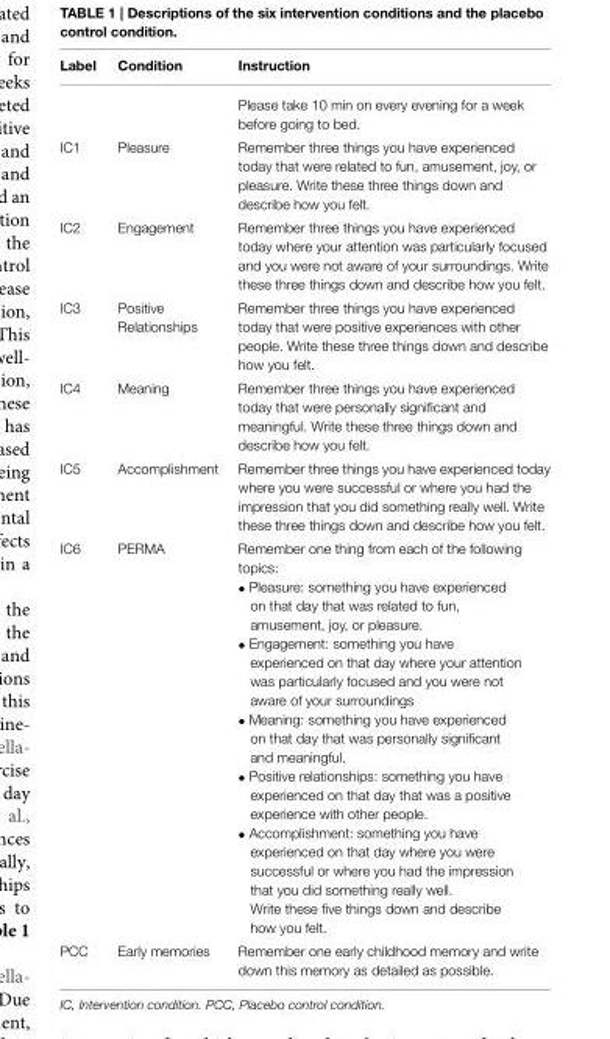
<table><thead><tr><td>Label</td><td>Condition</td><td>Instruction</td></tr></thead><tbody><tr><td></td><td></td><td>Please take 10 min on every evening for a week before going to bed.</td></tr><tr><td>IC1</td><td>Pleasure</td><td>Remember three things you have experienced today that were related to fun, amusement, joy, or pleasure. Write these three things down and describe how you felt.</td></tr><tr><td>IC2</td><td>Engagement</td><td>Remember three things you have experienced today where your attention was particularly focused and you were not aware of your surroundings. Write these three things down and describe how you felt.</td></tr><tr><td>IC3</td><td>Positive Relationships</td><td>Remember three things you have experienced today that were positive experiences with other people. Write these three things down and describe how you felt.</td></tr><tr><td>IC4</td><td>Meaning</td><td>Remember three things you have experienced today that were personally significant and meaningful. Write these three things down and describe how you felt.</td></tr><tr><td>IC5</td><td>Accomplishment</td><td>Remember three things you have experienced today where you were successful or where you had the impression that you did something really well. Write these three things down and describe how you felt.</td></tr><tr><td>IC6</td><td>PERMA</td><td>Remember one thing from each of the following topics: • Pleasure: something you have experienced on that day that was related to fun, amusement, joy, or pleasure. • Engagement: something you have experienced on that day where your attention was particularly focused and you were not aware of your surroundings • Meaning: something you have experienced on that day that was personally significant and meaningful. • Positive relationships: something you have experienced on that day that was a positive experience with other people. • Accomplishment: something you have experienced on that day where you were successful or where you had the impression that you did something really well. Write these five things down and describe how you felt.</td></tr><tr><td>PCC</td><td>Early memories</td><td>Remember one early childhood memory and write down this memory as detailed as possible.</td></tr></tbody></table>